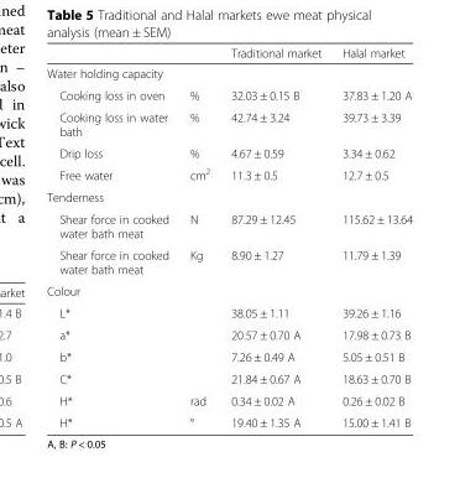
<table><thead><tr><td></td><td></td><td>Traditional market</td><td>Halal market</td></tr></thead><tbody><tr><td colspan="4">Water holding capacity</td></tr><tr><td>Cooking loss in oven</td><td>%</td><td>32.03 ± 0.15 B</td><td>37.83 ± 1.20 A</td></tr><tr><td>Cooking loss in water bath</td><td>%</td><td>42.74 ± 3.24</td><td>39.73 ± 3.39</td></tr><tr><td>Drip loss</td><td>%</td><td>4.67 ± 0.59</td><td>3.34 ± 0.62</td></tr><tr><td>Free water</td><td>cm<sup>2</sup></td><td>11.3 ± 0.5</td><td>12.7 ± 0.5</td></tr><tr><td colspan="4">Tenderness</td></tr><tr><td>Shear force in cooked water bath meat</td><td>N</td><td>87.29 ± 12.45</td><td>115.62 ± 13.64</td></tr><tr><td>Shear force in cooked water bath meat</td><td>Kg</td><td>8.90 ± 1.27</td><td>11.79 ± 1.39</td></tr><tr><td colspan="4">Colour</td></tr><tr><td>L*</td><td></td><td>38.05 ± 1.11</td><td>39.26 ± 1.16</td></tr><tr><td>a*</td><td></td><td>20.57 ± 0.70 A</td><td>17.98 ± 0.73 B</td></tr><tr><td>b*</td><td></td><td>7.26 ± 0.49 A</td><td>5.05 ± 0.51 B</td></tr><tr><td>C*</td><td></td><td>21.84 ± 0.67 A</td><td>18.63 ± 0.70 B</td></tr><tr><td>H*</td><td>rad</td><td>0.34 ± 0.02 A</td><td>0.26 ± 0.02 B</td></tr><tr><td>H*</td><td>°</td><td>19.40 ± 1.35 A</td><td>15.00 ± 1.41 B</td></tr></tbody></table>